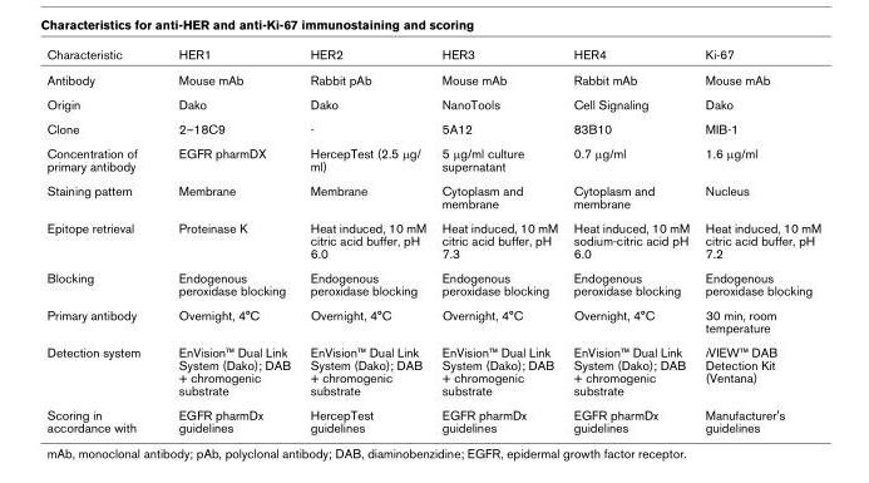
<table><thead><tr><td>Characteristic</td><td>HER1</td><td>HER2</td><td>HER3</td><td>HER4</td><td>Ki-67</td></tr></thead><tbody><tr><td>Antibody</td><td>Mouse mAb</td><td>Rabbit pAb</td><td>Mouse mAb</td><td>Rabbit mAb</td><td>Mouse mAb</td></tr><tr><td>Origin</td><td>Dako</td><td>Dako</td><td>NanoTools</td><td>Cell Signaling</td><td>Dako</td></tr><tr><td>Clone</td><td>2–18C9</td><td>-</td><td>5A12</td><td>83B10</td><td>MIB-1</td></tr><tr><td>Concentration of primary antibody</td><td>EGFR pharmDX</td><td>HercepTest (2.5 μg/ ml)</td><td>5 μg/ml culture supernatant</td><td>0.7 μg/ml</td><td>1.6 μg/ml</td></tr><tr><td>Staining pattern</td><td>Membrane</td><td>Membrane</td><td>Cytoplasm and membrane</td><td>Cytoplasm and membrane</td><td>Nucleus</td></tr><tr><td>Epitope retrieval</td><td>Proteinase K</td><td>Heat induced, 10 mM citric acid buffer, pH 6.0</td><td>Heat induced, 10 mM citric acid buffer, pH 7.3</td><td>Heat induced, 10 mM sodium-citric acid pH 6.0</td><td>Heat induced, 10 mM citric acid buffer, pH 7.2</td></tr><tr><td>Blocking</td><td>Endogenous peroxidase blocking</td><td>Endogenous peroxidase blocking</td><td>Endogenous peroxidase blocking</td><td>Endogenous peroxidase blocking</td><td>Endogenous peroxidase blocking</td></tr><tr><td>Primary antibody</td><td>Overnight, 4°C</td><td>Overnight, 4°C</td><td>Overnight, 4°C</td><td>Overnight, 4°C</td><td>30 min, room temperature</td></tr><tr><td>Detection system</td><td>EnVision™ Dual Link System (Dako); DAB + chromogenic substrate</td><td>EnVision™ Dual Link System (Dako); DAB + chromogenic substrate</td><td>EnVision™ Dual Link System (Dako); DAB + chromogenic substrate</td><td>EnVision™ Dual Link System (Dako); DAB + chromogenic substrate</td><td>iVIEW™ DAB Detection Kit (Ventana)</td></tr><tr><td>Scoring in accordance with</td><td>EGFR pharmDx guidelines</td><td>HercepTest guidelines</td><td>EGFR pharmDx guidelines</td><td>EGFR pharmDx guidelines</td><td>Manufacturer&#x27;s guidelines</td></tr></tbody></table>